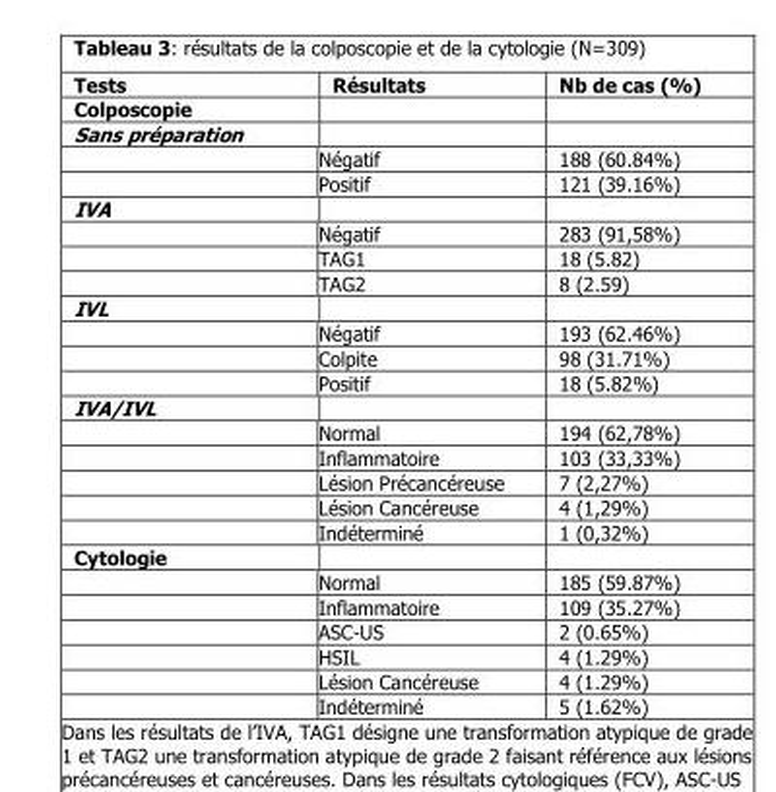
<table><thead><tr><td>Tests</td><td>Résultats</td><td>Nb de cas (%)</td></tr></thead><tbody><tr><td colspan="3">Colposcopie</td></tr><tr><td colspan="3">Sans préparation</td></tr><tr><td></td><td>Négatif</td><td>188 (60.84%)</td></tr><tr><td></td><td>Positif</td><td>121 (39.16%)</td></tr><tr><td colspan="3">IVA</td></tr><tr><td></td><td>Négatif</td><td>283 (91,58%)</td></tr><tr><td></td><td>TAG1</td><td>18 (5.82)</td></tr><tr><td></td><td>TAG2</td><td>8 (2.59)</td></tr><tr><td colspan="3">IVL</td></tr><tr><td></td><td>Négatif</td><td>193 (62.46%)</td></tr><tr><td></td><td>Colpite</td><td>98 (31.71%)</td></tr><tr><td></td><td>Positif</td><td>18 (5.82%)</td></tr><tr><td colspan="3">IVA/IVL</td></tr><tr><td></td><td>Normal</td><td>194 (62,78%)</td></tr><tr><td></td><td>Inflammatoire</td><td>103 (33,33%)</td></tr><tr><td></td><td>Lésion Précancéreuse</td><td>7 (2,27%)</td></tr><tr><td></td><td>Lésion Cancéreuse</td><td>4 (1,29%)</td></tr><tr><td></td><td>Indéterminé</td><td>1 (0,32%)</td></tr><tr><td colspan="3">Cytologie</td></tr><tr><td></td><td>Normal</td><td>185 (59.87%)</td></tr><tr><td></td><td>Inflammatoire</td><td>109 (35.27%)</td></tr><tr><td></td><td>ASC-US</td><td>2 (0.65%)</td></tr><tr><td></td><td>HSIL</td><td>4 (1.29%)</td></tr><tr><td></td><td>Lésion Cancéreuse</td><td>4 (1.29%)</td></tr><tr><td></td><td>Indéterminé</td><td>5 (1.62%)</td></tr></tbody></table>